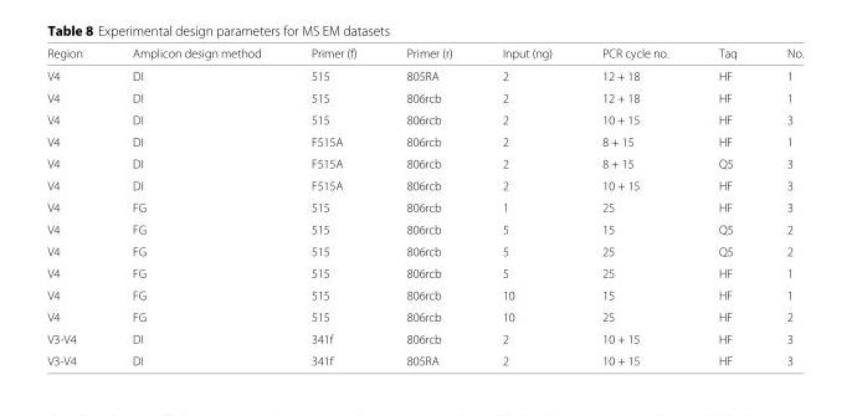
<table><thead><tr><td>Region</td><td>Amplicon design method</td><td>Primer (f)</td><td>Primer (r)</td><td>Input (ng)</td><td>PCR cycle no.</td><td>Taq</td><td>No.</td></tr></thead><tbody><tr><td>V4</td><td>DI</td><td>515</td><td>805RA</td><td>2</td><td>12 + 18</td><td>HF</td><td>1</td></tr><tr><td>V4</td><td>DI</td><td>515</td><td>806rcb</td><td>2</td><td>12 + 18</td><td>HF</td><td>1</td></tr><tr><td>V4</td><td>DI</td><td>515</td><td>806rcb</td><td>2</td><td>10 + 15</td><td>HF</td><td>3</td></tr><tr><td>V4</td><td>DI</td><td>F515A</td><td>806rcb</td><td>2</td><td>8 + 15</td><td>HF</td><td>1</td></tr><tr><td>V4</td><td>DI</td><td>F515A</td><td>806rcb</td><td>2</td><td>8 + 15</td><td>Q5</td><td>3</td></tr><tr><td>V4</td><td>DI</td><td>F515A</td><td>806rcb</td><td>2</td><td>10 + 15</td><td>HF</td><td>3</td></tr><tr><td>V4</td><td>FG</td><td>515</td><td>806rcb</td><td>1</td><td>25</td><td>HF</td><td>3</td></tr><tr><td>V4</td><td>FG</td><td>515</td><td>806rcb</td><td>5</td><td>15</td><td>Q5</td><td>2</td></tr><tr><td>V4</td><td>FG</td><td>515</td><td>806rcb</td><td>5</td><td>25</td><td>Q5</td><td>2</td></tr><tr><td>V4</td><td>FG</td><td>515</td><td>806rcb</td><td>5</td><td>25</td><td>HF</td><td>1</td></tr><tr><td>V4</td><td>FG</td><td>515</td><td>806rcb</td><td>10</td><td>15</td><td>HF</td><td>1</td></tr><tr><td>V4</td><td>FG</td><td>515</td><td>806rcb</td><td>10</td><td>25</td><td>HF</td><td>2</td></tr><tr><td>V3-V4</td><td>DI</td><td>341f</td><td>806rcb</td><td>2</td><td>10 + 15</td><td>HF</td><td>3</td></tr><tr><td>V3-V4</td><td>DI</td><td>341f</td><td>805RA</td><td>2</td><td>10 + 15</td><td>HF</td><td>3</td></tr></tbody></table>